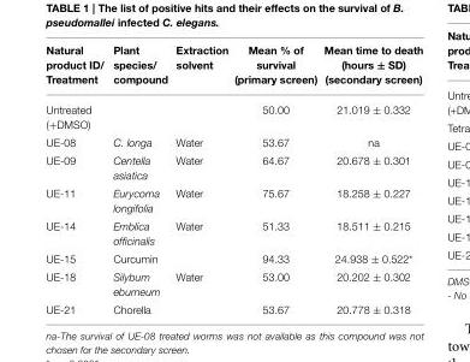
<table><thead><tr><td>Natural product ID/ Treatment</td><td>Plant species/ compound</td><td>Extraction solvent</td><td>Mean % of survival (primary screen)</td><td>Mean time to death (hours ± SD) (secondary screen)</td></tr></thead><tbody><tr><td>Untreated (+DMSO)</td><td></td><td></td><td>50.00</td><td>21.019 ± 0.332</td></tr><tr><td>UE-08</td><td>C. longa</td><td>Water</td><td>53.67</td><td>na</td></tr><tr><td>UE-09</td><td>Centella asiatica</td><td>Water</td><td>64.67</td><td>20.678 ± 0.301</td></tr><tr><td>UE-11</td><td>Eurycoma longifolia</td><td>Water</td><td>75.67</td><td>18.258 ± 0.227</td></tr><tr><td>UE-14</td><td>Emblica officinalis</td><td>Water</td><td>51.33</td><td>18.511 ± 0.215</td></tr><tr><td>UE-15</td><td>Curcumin</td><td></td><td>94.33</td><td>24.938 ± 0.522*</td></tr><tr><td>UE-18</td><td>Silybum eburneum</td><td>Water</td><td>53.00</td><td>20.202 ± 0.302</td></tr><tr><td>UE-21</td><td>Chorella</td><td></td><td>53.67</td><td>20.778 ± 0.318</td></tr></tbody></table>